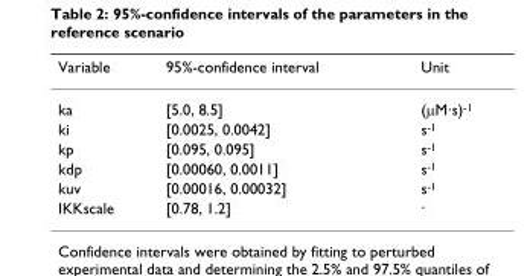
<table><thead><tr><td>Variable</td><td>95%-confidence interval</td><td>Unit</td></tr></thead><tbody><tr><td>ka</td><td>[5.0, 8.5]</td><td>(μM·s)<sup>-1</sup></td></tr><tr><td>ki</td><td>[0.0025, 0.0042]</td><td>s<sup>-1</sup></td></tr><tr><td>kp</td><td>[0.095, 0.095]</td><td>s<sup>-1</sup></td></tr><tr><td>kdp</td><td>[0.00060, 0.0011]</td><td>s<sup>-1</sup></td></tr><tr><td>kuv</td><td>[0.00016, 0.00032]</td><td>s<sup>-1</sup></td></tr><tr><td>IKKscale</td><td>[0.78, 1.2]</td><td><sup>-</sup></td></tr></tbody></table>